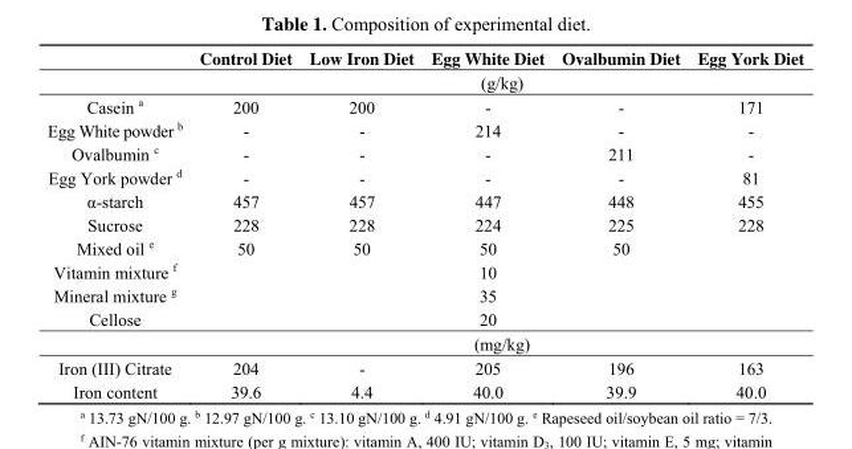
<table><thead><tr><td></td><td>Control Diet</td><td>Low Iron Diet</td><td>Egg White Diet</td><td>Ovalbumin Diet</td><td>Egg York Diet</td></tr></thead><tbody><tr><td></td><td colspan="5">(g/kg)</td></tr><tr><td>Casein <sup>a</sup></td><td>200</td><td>200</td><td>-</td><td>-</td><td>171</td></tr><tr><td>Egg White powder <sup>b</sup></td><td>-</td><td>-</td><td>214</td><td>-</td><td>-</td></tr><tr><td>Ovalbumin <sup>c</sup></td><td>-</td><td>-</td><td>-</td><td>211</td><td>-</td></tr><tr><td>Egg York powder <sup>d</sup></td><td>-</td><td>-</td><td>-</td><td>-</td><td>81</td></tr><tr><td>α-starch</td><td>457</td><td>457</td><td>447</td><td>448</td><td>455</td></tr><tr><td>Sucrose</td><td>228</td><td>228</td><td>224</td><td>225</td><td>228</td></tr><tr><td>Mixed oil <sup>e</sup></td><td>50</td><td>50</td><td>50</td><td>50</td><td></td></tr><tr><td>Vitamin mixture <sup>f</sup></td><td></td><td></td><td>10</td><td></td><td></td></tr><tr><td>Mineral mixture <sup>g</sup></td><td></td><td></td><td>35</td><td></td><td></td></tr><tr><td rowspan="2">Cellose</td><td></td><td></td><td>20</td><td></td><td></td></tr><tr><td colspan="5">(mg/kg)</td></tr><tr><td>Iron (III) Citrate</td><td>204</td><td>-</td><td>205</td><td>196</td><td>163</td></tr><tr><td>Iron content</td><td>39.6</td><td>4.4</td><td>40.0</td><td>39.9</td><td>40.0</td></tr></tbody></table>